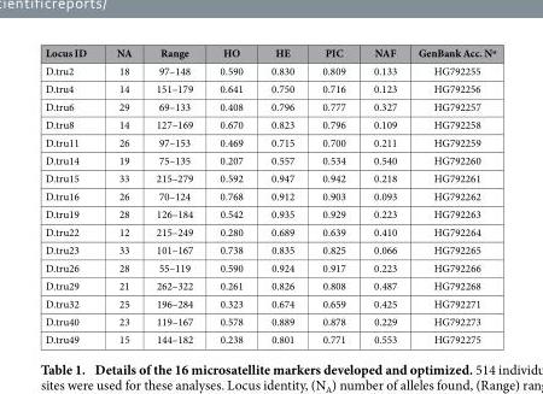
<table><thead><tr><td>Locus ID</td><td>NA</td><td>Range</td><td>HO</td><td>HE</td><td>PIC</td><td>NAF</td><td>GenBank Acc. Nº</td></tr></thead><tbody><tr><td>D.tru2</td><td>18</td><td>97–148</td><td>0.590</td><td>0.830</td><td>0.809</td><td>0.133</td><td>HG792255</td></tr><tr><td>D.tru4</td><td>14</td><td>151–179</td><td>0.641</td><td>0.750</td><td>0.716</td><td>0.123</td><td>HG792256</td></tr><tr><td>D.tru6</td><td>29</td><td>69–133</td><td>0.408</td><td>0.796</td><td>0.777</td><td>0.327</td><td>HG792257</td></tr><tr><td>D.tru8</td><td>14</td><td>127–169</td><td>0.670</td><td>0.823</td><td>0.796</td><td>0.109</td><td>HG792258</td></tr><tr><td>D.tru11</td><td>26</td><td>97–153</td><td>0.469</td><td>0.715</td><td>0.700</td><td>0.211</td><td>HG792259</td></tr><tr><td>D.tru14</td><td>19</td><td>75–135</td><td>0.207</td><td>0.557</td><td>0.534</td><td>0.540</td><td>HG792260</td></tr><tr><td>D.tru15</td><td>33</td><td>215–279</td><td>0.592</td><td>0.947</td><td>0.942</td><td>0.218</td><td>HG792261</td></tr><tr><td>D.tru16</td><td>26</td><td>70–124</td><td>0.768</td><td>0.912</td><td>0.903</td><td>0.093</td><td>HG792262</td></tr><tr><td>D.tru19</td><td>28</td><td>126–184</td><td>0.542</td><td>0.935</td><td>0.929</td><td>0.223</td><td>HG792263</td></tr><tr><td>D.tru22</td><td>12</td><td>215–249</td><td>0.280</td><td>0.689</td><td>0.639</td><td>0.410</td><td>HG792264</td></tr><tr><td>D.tru23</td><td>33</td><td>101–167</td><td>0.738</td><td>0.835</td><td>0.825</td><td>0.066</td><td>HG792265</td></tr><tr><td>D.tru26</td><td>28</td><td>55–119</td><td>0.590</td><td>0.924</td><td>0.917</td><td>0.223</td><td>HG792266</td></tr><tr><td>D.tru29</td><td>21</td><td>262–322</td><td>0.261</td><td>0.826</td><td>0.808</td><td>0.487</td><td>HG792268</td></tr><tr><td>D.tru32</td><td>25</td><td>196–284</td><td>0.323</td><td>0.674</td><td>0.659</td><td>0.425</td><td>HG792271</td></tr><tr><td>D.tru40</td><td>23</td><td>119–167</td><td>0.578</td><td>0.889</td><td>0.878</td><td>0.229</td><td>HG792273</td></tr><tr><td>D.tru49</td><td>15</td><td>144–182</td><td>0.238</td><td>0.801</td><td>0.771</td><td>0.553</td><td>HG792275</td></tr></tbody></table>